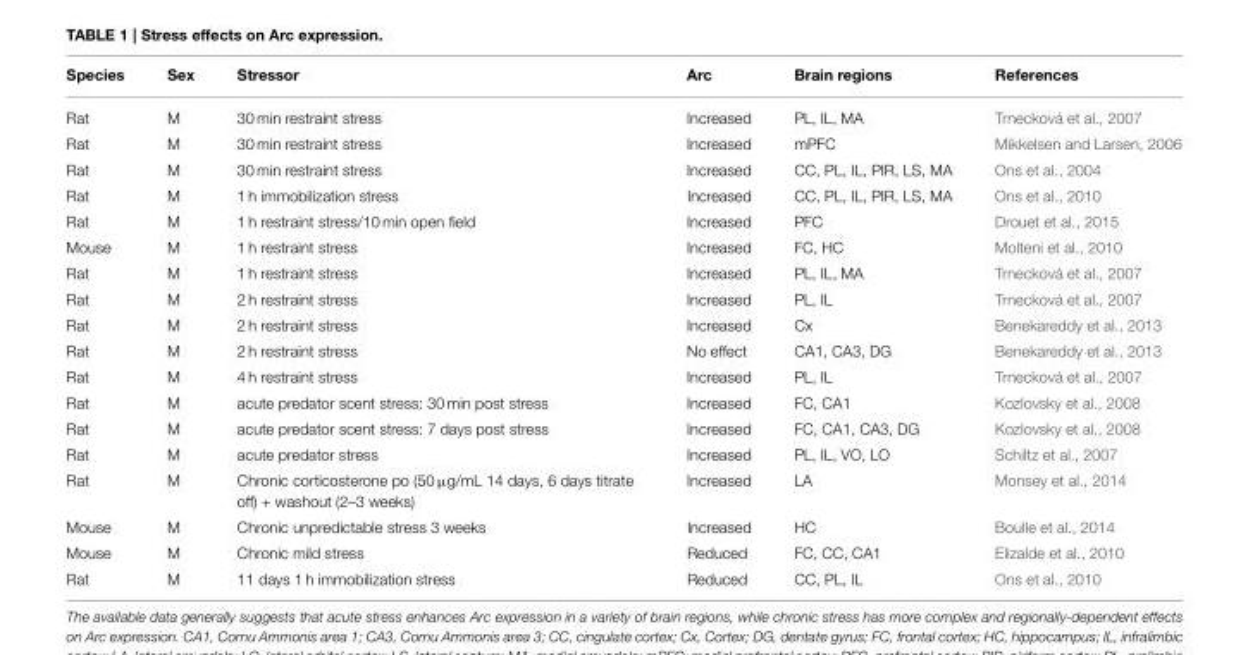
<table><thead><tr><td>Species</td><td>Sex</td><td>Stressor</td><td>Arc</td><td>Brain regions</td><td>References</td></tr></thead><tbody><tr><td>Rat</td><td>M</td><td>30 min restraint stress</td><td>Increased</td><td>PL, IL, MA</td><td>Trnecková et al., 2007</td></tr><tr><td>Rat</td><td>M</td><td>30 min restraint stress</td><td>Increased</td><td>mPFC</td><td>Mikkelsen and Larsen, 2006</td></tr><tr><td>Rat</td><td>M</td><td>30 min restraint stress</td><td>Increased</td><td>CC, PL, IL, PIR, LS, MA</td><td>Ons et al., 2004</td></tr><tr><td>Rat</td><td>M</td><td>1 h immobilization stress</td><td>Increased</td><td>CC, PL, IL, PIR, LS, MA</td><td>Ons et al., 2010</td></tr><tr><td>Rat</td><td>M</td><td>1 h restraint stress/10 min open field</td><td>Increased</td><td>PFC</td><td>Drouet et al., 2015</td></tr><tr><td>Mouse</td><td>M</td><td>1 h restraint stress</td><td>Increased</td><td>FC, HC</td><td>Molteni et al., 2010</td></tr><tr><td>Rat</td><td>M</td><td>1 h restraint stress</td><td>Increased</td><td>PL, IL, MA</td><td>Trnecková et al., 2007</td></tr><tr><td>Rat</td><td>M</td><td>2 h restraint stress</td><td>Increased</td><td>PL, IL</td><td>Trnecková et al., 2007</td></tr><tr><td>Rat</td><td>M</td><td>2 h restraint stress</td><td>Increased</td><td>Cx</td><td>Benekareddy et al., 2013</td></tr><tr><td>Rat</td><td>M</td><td>2 h restraint stress</td><td>No effect</td><td>CA1, CA3, DG</td><td>Benekareddy et al., 2013</td></tr><tr><td>Rat</td><td>M</td><td>4 h restraint stress</td><td>Increased</td><td>PL, IL</td><td>Trnecková et al., 2007</td></tr><tr><td>Rat</td><td>M</td><td>acute predator scent stress: 30 min post stress</td><td>Increased</td><td>FC, CA1</td><td>Kozlovsky et al., 2008</td></tr><tr><td>Rat</td><td>M</td><td>acute predator scent stress: 7 days post stress</td><td>Increased</td><td>FC, CA1, CA3, DG</td><td>Kozlovsky et al., 2008</td></tr><tr><td>Rat</td><td>M</td><td>acute predator stress</td><td>Increased</td><td>PL, IL, VO, LO</td><td>Schiltz et al., 2007</td></tr><tr><td>Rat</td><td>M</td><td>Chronic corticosterone po (50 μg/mL 14 days, 6 days titrate off) + washout (2–3 weeks)</td><td>Increased</td><td>LA</td><td>Monsey et al., 2014</td></tr><tr><td>Mouse</td><td>M</td><td>Chronic unpredictable stress 3 weeks</td><td>Increased</td><td>HC</td><td>Boulle et al., 2014</td></tr><tr><td>Mouse</td><td>M</td><td>Chronic mild stress</td><td>Reduced</td><td>FC, CC, CA1</td><td>Elizalde et al., 2010</td></tr><tr><td>Rat</td><td>M</td><td>11 days 1 h immobilization stress</td><td>Reduced</td><td>CC, PL, IL</td><td>Ons et al., 2010</td></tr></tbody></table>